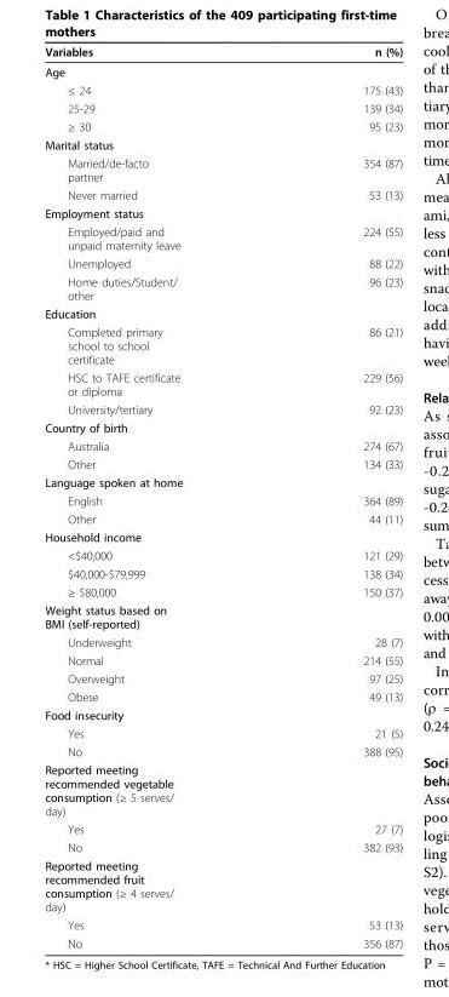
<table><thead><tr><td>Variables</td><td>n (%)</td></tr></thead><tbody><tr><td colspan="2">Age</td></tr><tr><td>≤ 24</td><td>175 (43)</td></tr><tr><td>25-29</td><td>139 (34)</td></tr><tr><td>≥ 30</td><td>95 (23)</td></tr><tr><td colspan="2">Marital status</td></tr><tr><td>Married/de-facto partner</td><td>354 (87)</td></tr><tr><td>Never married</td><td>53 (13)</td></tr><tr><td colspan="2">Employment status</td></tr><tr><td>Employed/paid and unpaid maternity leave</td><td>224 (55)</td></tr><tr><td>Unemployed</td><td>88 (22)</td></tr><tr><td>Home duties/Student/ other</td><td>96 (23)</td></tr><tr><td colspan="2">Education</td></tr><tr><td>Completed primary school to school certificate</td><td>86 (21)</td></tr><tr><td>HSC to TAFE certificate or diploma</td><td>229 (56)</td></tr><tr><td>University/tertiary</td><td>92 (23)</td></tr><tr><td colspan="2">Country of birth</td></tr><tr><td>Australia</td><td>274 (67)</td></tr><tr><td>Other</td><td>134 (33)</td></tr><tr><td colspan="2">Language spoken at home</td></tr><tr><td>English</td><td>364 (89)</td></tr><tr><td>Other</td><td>44 (11)</td></tr><tr><td colspan="2">Household income</td></tr><tr><td>&lt;$40,000</td><td>121 (29)</td></tr><tr><td>$40,000-$79,999</td><td>138 (34)</td></tr><tr><td>≥ $80,000</td><td>150 (37)</td></tr><tr><td colspan="2">Weight status based on BMI (self-reported)</td></tr><tr><td>Underweight</td><td>28 (7)</td></tr><tr><td>Normal</td><td>214 (55)</td></tr><tr><td>Overweight</td><td>97 (25)</td></tr><tr><td>Obese</td><td>49 (13)</td></tr><tr><td colspan="2">Food insecurity</td></tr><tr><td>Yes</td><td>21 (5)</td></tr><tr><td>No</td><td>388 (95)</td></tr><tr><td colspan="2">Reported meeting recommended vegetable consumption (≥ 5 serves/ day)</td></tr><tr><td>Yes</td><td>27 (7)</td></tr><tr><td>No</td><td>382 (93)</td></tr><tr><td colspan="2">Reported meeting recommended fruit consumption (≥ 4 serves/ day)</td></tr><tr><td>Yes</td><td>53 (13)</td></tr><tr><td>No</td><td>356 (87)</td></tr></tbody></table>